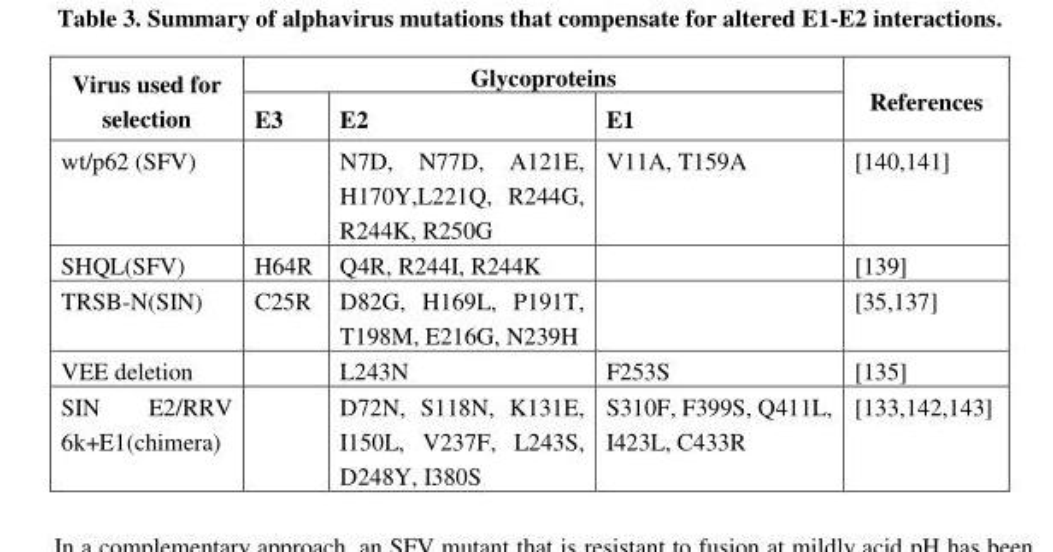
<table><thead><tr><td rowspan="2">Virus used for selection</td><td colspan="3">Glycoproteins</td><td rowspan="2">References</td></tr><tr><td>E3</td><td>E2</td><td>E1</td></tr></thead><tbody><tr><td>wt/p62 (SFV)</td><td></td><td>N7D, N77D, A121E, H170Y,L221Q, R244G, R244K, R250G</td><td>V11A, T159A</td><td>[140,141]</td></tr><tr><td>SHQL(SFV)</td><td>H64R</td><td>Q4R, R244I, R244K</td><td></td><td>[139]</td></tr><tr><td>TRSB-N(SIN)</td><td>C25R</td><td>D82G, H169L, P191T, T198M, E216G, N239H</td><td></td><td>[35,137]</td></tr><tr><td>VEE deletion</td><td></td><td>L243N</td><td>F253S</td><td>[135]</td></tr><tr><td>SIN E2/RRV 6k+E1(chimera)</td><td></td><td>D72N, S118N, K131E, I150L, V237F, L243S, D248Y, I380S</td><td>S310F, F399S, Q411L, I423L, C433R</td><td>[133,142,143]</td></tr></tbody></table>